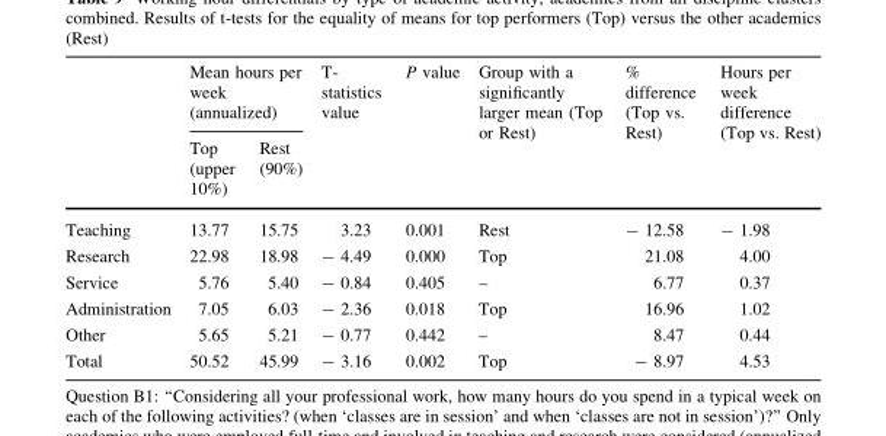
<table><thead><tr><td rowspan="2"></td><td colspan="2">Mean hours per week (annualized)</td><td rowspan="2">T- statistics value</td><td rowspan="2">P value</td><td rowspan="2">Group with a significantly larger mean (Top or Rest)</td><td rowspan="2">% difference (Top vs. Rest)</td><td rowspan="2">Hours per week difference (Top vs. Rest)</td></tr><tr><td>Top (upper 10%)</td><td>Rest (90%)</td></tr></thead><tbody><tr><td>Teaching</td><td>13.77</td><td>15.75</td><td>3.23</td><td>0.001</td><td>Rest</td><td>- 12.58</td><td>- 1.98</td></tr><tr><td>Research</td><td>22.98</td><td>18.98</td><td>- 4.49</td><td>0.000</td><td>Top</td><td>21.08</td><td>4.00</td></tr><tr><td>Service</td><td>5.76</td><td>5.40</td><td>- 0.84</td><td>0.405</td><td>–</td><td>6.77</td><td>0.37</td></tr><tr><td>Administration</td><td>7.05</td><td>6.03</td><td>- 2.36</td><td>0.018</td><td>Top</td><td>16.96</td><td>1.02</td></tr><tr><td>Other</td><td>5.65</td><td>5.21</td><td>- 0.77</td><td>0.442</td><td>–</td><td>8.47</td><td>0.44</td></tr><tr><td>Total</td><td>50.52</td><td>45.99</td><td>- 3.16</td><td>0.002</td><td>Top</td><td>- 8.97</td><td>4.53</td></tr></tbody></table>